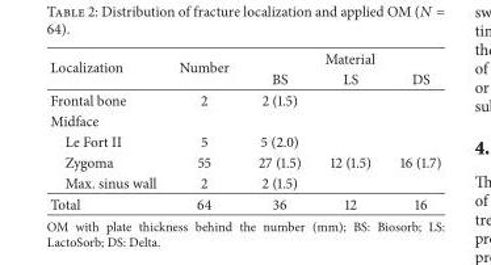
<table><thead><tr><td rowspan="2">Localization</td><td rowspan="2">Number</td><td colspan="3">Material</td></tr><tr><td>BS</td><td>LS</td><td>DS</td></tr></thead><tbody><tr><td>Frontal bone</td><td>2</td><td>2 (1.5)</td><td></td><td></td></tr><tr><td colspan="5">Midface</td></tr><tr><td>Le Fort II</td><td>5</td><td>5 (2.0)</td><td></td><td></td></tr><tr><td>Zygoma</td><td>55</td><td>27 (1.5)</td><td>12 (1.5)</td><td>16 (1.7)</td></tr><tr><td>Max. sinus wall</td><td>2</td><td>2 (1.5)</td><td></td><td></td></tr><tr><td>Total</td><td>64</td><td>36</td><td>12</td><td>16</td></tr></tbody></table>